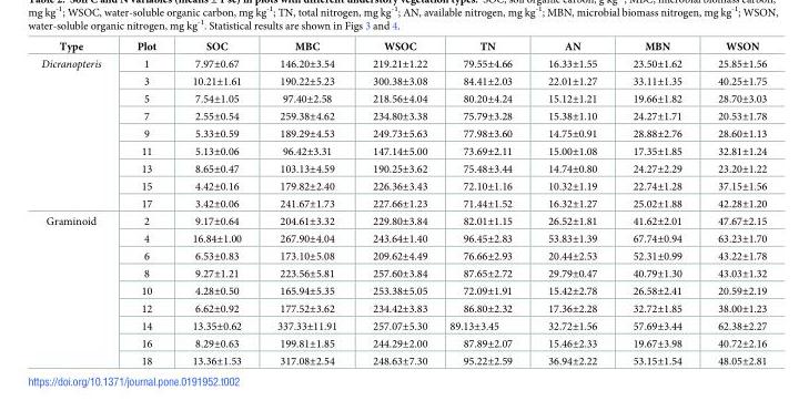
<table><thead><tr><td>Type</td><td>Plot</td><td>SOC</td><td>MBC</td><td>WSOC</td><td>TN</td><td>AN</td><td>MBN</td><td>WSON</td></tr></thead><tbody><tr><td rowspan="9">Dicranopteris</td><td>1</td><td>7.97±0.67</td><td>146.20±3.54</td><td>219.21±1.22</td><td>79.55±4.66</td><td>16.33±1.55</td><td>23.50±1.62</td><td>25.85±1.56</td></tr><tr><td>3</td><td>10.21±1.61</td><td>190.22±5.23</td><td>300.38±3.08</td><td>84.41±2.03</td><td>22.01±1.27</td><td>33.11±1.35</td><td>40.25±1.75</td></tr><tr><td>5</td><td>7.54±1.05</td><td>97.40±2.58</td><td>218.56±4.04</td><td>80.20±4.24</td><td>15.12±1.21</td><td>19.66±1.82</td><td>28.70±3.03</td></tr><tr><td>7</td><td>2.55±0.54</td><td>259.38±4.62</td><td>234.80±3.38</td><td>75.79±3.28</td><td>15.38±1.10</td><td>24.27±1.71</td><td>20.53±1.78</td></tr><tr><td>9</td><td>5.33±0.59</td><td>189.29±4.53</td><td>249.73±5.63</td><td>77.98±3.60</td><td>14.75±0.91</td><td>28.88±2.76</td><td>28.60±1.13</td></tr><tr><td>11</td><td>5.13±0.06</td><td>96.42±3.31</td><td>147.14±5.00</td><td>73.69±2.11</td><td>15.00±1.08</td><td>17.35±1.85</td><td>32.81±1.24</td></tr><tr><td>13</td><td>8.65±0.47</td><td>103.13±4.59</td><td>190.25±3.62</td><td>75.48±3.44</td><td>14.74±0.80</td><td>24.27±2.29</td><td>23.20±1.22</td></tr><tr><td>15</td><td>4.42±0.16</td><td>179.82±2.40</td><td>226.36±3.43</td><td>72.10±1.16</td><td>10.32±1.19</td><td>22.74±1.28</td><td>37.15±1.56</td></tr><tr><td>17</td><td>3.42±0.06</td><td>241.67±1.73</td><td>227.66±1.23</td><td>71.44±1.52</td><td>16.32±1.27</td><td>25.02±1.88</td><td>42.28±1.20</td></tr><tr><td rowspan="9">Graminoid</td><td>2</td><td>9.17±0.64</td><td>204.61±3.32</td><td>229.80±3.84</td><td>82.01±1.15</td><td>26.52±1.81</td><td>41.62±2.01</td><td>47.67±2.15</td></tr><tr><td>4</td><td>16.84±1.00</td><td>267.90±4.04</td><td>243.64±1.40</td><td>96.45±2.83</td><td>53.83±1.39</td><td>67.74±0.94</td><td>63.23±1.70</td></tr><tr><td>6</td><td>6.53±0.83</td><td>173.10±5.08</td><td>209.62±4.49</td><td>76.66±2.93</td><td>20.44±2.53</td><td>52.31±0.99</td><td>43.22±1.78</td></tr><tr><td>8</td><td>9.27±1.21</td><td>223.56±5.81</td><td>257.60±3.84</td><td>87.65±2.72</td><td>29.79±0.47</td><td>40.79±1.30</td><td>43.03±1.32</td></tr><tr><td>10</td><td>4.28±0.50</td><td>165.94±5.35</td><td>253.38±5.05</td><td>72.09±1.91</td><td>15.42±2.78</td><td>26.58±2.41</td><td>20.59±2.19</td></tr><tr><td>12</td><td>6.62±0.92</td><td>177.52±3.62</td><td>234.42±3.83</td><td>86.80±2.32</td><td>17.36±2.28</td><td>32.72±1.85</td><td>38.00±1.23</td></tr><tr><td>14</td><td>13.35±0.62</td><td>337.33±11.91</td><td>257.07±5.30</td><td>89.13±3.45</td><td>32.72±1.56</td><td>57.69±3.44</td><td>62.38±2.27</td></tr><tr><td>16</td><td>8.29±0.63</td><td>199.81±1.85</td><td>244.29±2.00</td><td>87.89±2.07</td><td>15.46±2.33</td><td>19.67±3.98</td><td>40.72±2.16</td></tr><tr><td>18</td><td>13.36±1.53</td><td>317.08±2.54</td><td>248.63±7.30</td><td>95.22±2.59</td><td>36.94±2.22</td><td>53.15±1.54</td><td>48.05±2.81</td></tr></tbody></table>